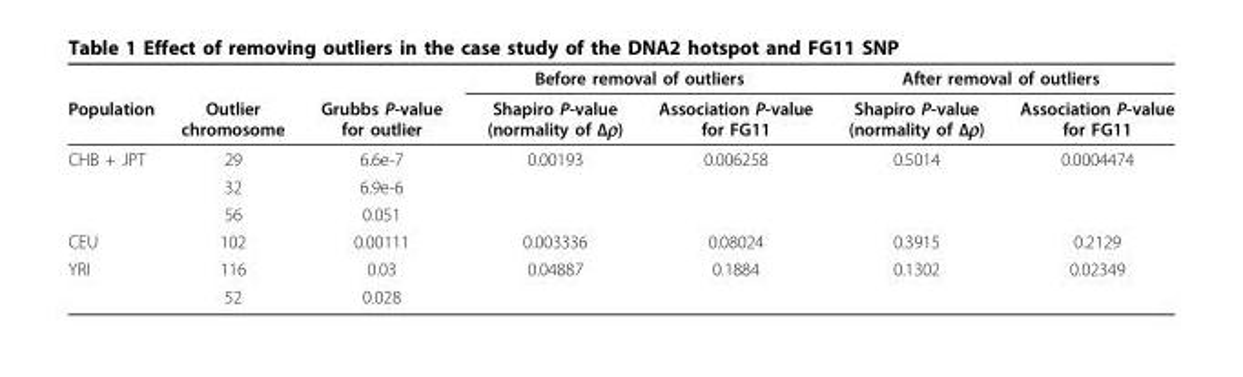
<table><thead><tr><td rowspan="2">Population</td><td rowspan="2">Outlier chromosome</td><td rowspan="2">Grubbs P-value for outlier</td><td colspan="2">Before removal of outliers</td><td colspan="2">After removal of outliers</td></tr><tr><td>Shapiro P-value (normality of Δρ)</td><td>Association P-value for FG11</td><td>Shapiro P-value (normality of Δρ)</td><td>Association P-value for FG11</td></tr></thead><tbody><tr><td rowspan="3">CHB + JPT</td><td>29</td><td>6.6e-7</td><td>0.00193</td><td>0.006258</td><td>0.5014</td><td>0.0004474</td></tr><tr><td>32</td><td>6.9e-6</td><td></td><td></td><td></td><td></td></tr><tr><td>56</td><td>0.051</td><td></td><td></td><td></td><td></td></tr><tr><td>CEU</td><td>102</td><td>0.00111</td><td>0.003336</td><td>0.08024</td><td>0.3915</td><td>0.2129</td></tr><tr><td rowspan="2">YRI</td><td>116</td><td>0.03</td><td>0.04887</td><td>0.1884</td><td>0.1302</td><td>0.02349</td></tr><tr><td>52</td><td>0.028</td><td></td><td></td><td></td><td></td></tr></tbody></table>